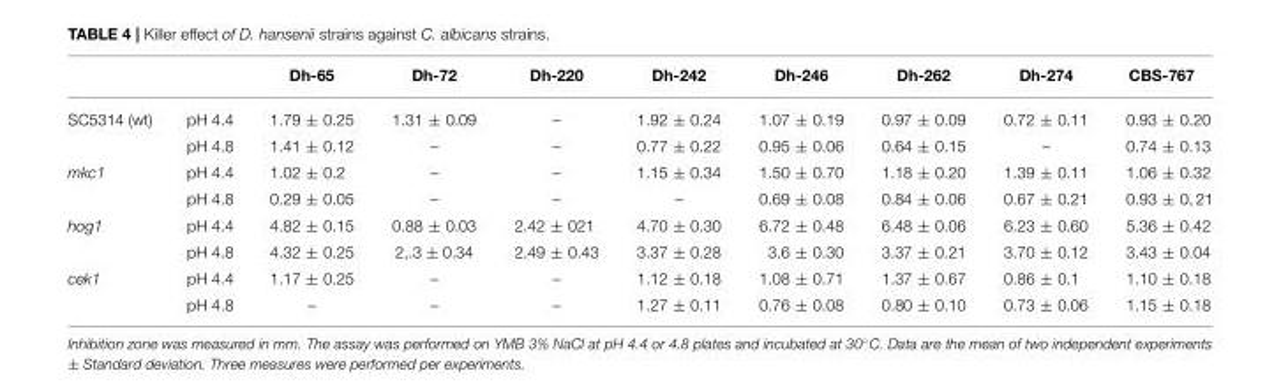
<table><thead><tr><td></td><td></td><td>Dh-65</td><td>Dh-72</td><td>Dh-220</td><td>Dh-242</td><td>Dh-246</td><td>Dh-262</td><td>Dh-274</td><td>CBS-767</td></tr></thead><tbody><tr><td rowspan="2">SC5314 (wt)</td><td>pH 4.4</td><td>1.79 ± 0.25</td><td>1.31 ± 0.09</td><td>–</td><td>1.92 ± 0.24</td><td>1.07 ± 0.19</td><td>0.97 ± 0.09</td><td>0.72 ± 0.11</td><td>0.93 ± 0.20</td></tr><tr><td>pH 4.8</td><td>1.41 ± 0.12</td><td>–</td><td>–</td><td>0.77 ± 0.22</td><td>0.95 ± 0.06</td><td>0.64 ± 0.15</td><td>–</td><td>0.74 ± 0.13</td></tr><tr><td rowspan="2">mkc1</td><td>pH 4.4</td><td>1.02 ± 0.2</td><td>–</td><td>–</td><td>1.15 ± 0.34</td><td>1.50 ± 0.70</td><td>1.18 ± 0.20</td><td>1.39 ± 0.11</td><td>1.06 ± 0.32</td></tr><tr><td>pH 4.8</td><td>0.29 ± 0.05</td><td>–</td><td>–</td><td>–</td><td>0.69 ± 0.08</td><td>0.84 ± 0.06</td><td>0.67 ± 0.21</td><td>0.93 ± 0, 21</td></tr><tr><td rowspan="2">hog1</td><td>pH 4.4</td><td>4.82 ± 0.15</td><td>0.88 ± 0.03</td><td>2.42 ± 021</td><td>4.70 ± 0.30</td><td>6.72 ± 0.48</td><td>6.48 ± 0.06</td><td>6.23 ± 0.60</td><td>5.36 ± 0.42</td></tr><tr><td>pH 4.8</td><td>4.32 ± 0.25</td><td>2,.3 ± 0.34</td><td>2.49 ± 0.43</td><td>3.37 ± 0.28</td><td>3.6 ± 0.30</td><td>3.37 ± 0.21</td><td>3.70 ± 0.12</td><td>3.43 ± 0.04</td></tr><tr><td rowspan="2">cek1</td><td>pH 4.4</td><td>1.17 ± 0.25</td><td>–</td><td>–</td><td>1.12 ± 0.18</td><td>1.08 ± 0.71</td><td>1.37 ± 0.67</td><td>0.86 ± 0.1</td><td>1.10 ± 0.18</td></tr><tr><td>pH 4.8</td><td>–</td><td>–</td><td>–</td><td>1.27 ± 0.11</td><td>0.76 ± 0.08</td><td>0.80 ± 0.10</td><td>0.73 ± 0.06</td><td>1.15 ± 0.18</td></tr></tbody></table>